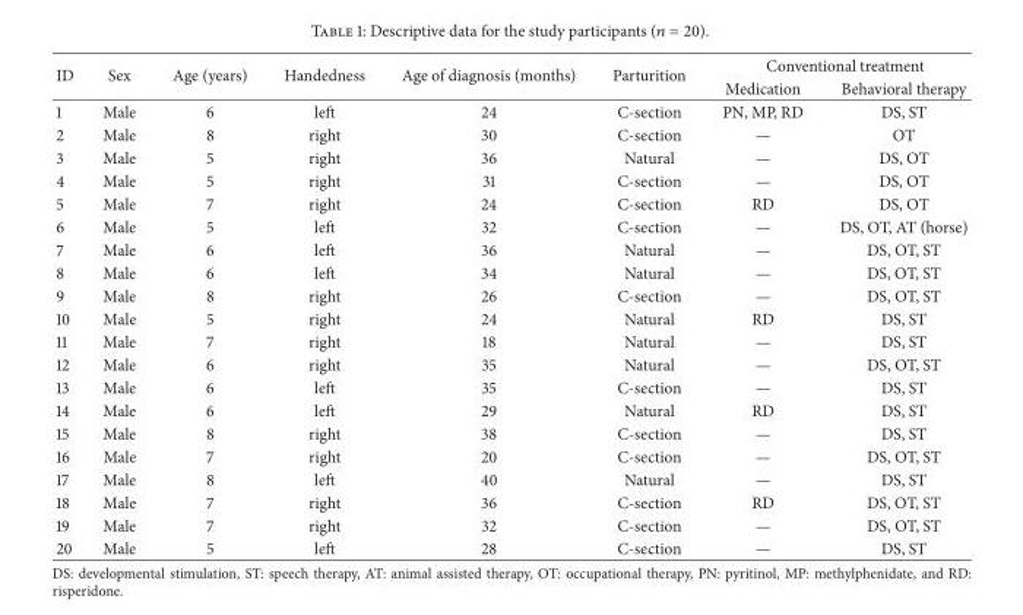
<table><thead><tr><td rowspan="2">ID</td><td rowspan="2">Sex</td><td rowspan="2">Age (years)</td><td rowspan="2">Handedness</td><td rowspan="2">Age of diagnosis (months)</td><td rowspan="2">Parturition</td><td colspan="2">Conventional treatment</td></tr><tr><td>Medication</td><td>Behavioral therapy</td></tr></thead><tbody><tr><td>1</td><td>Male</td><td>6</td><td>left</td><td>24</td><td>C-section</td><td>PN, MP, RD</td><td>DS, ST</td></tr><tr><td>2</td><td>Male</td><td>8</td><td>right</td><td>30</td><td>C-section</td><td>—</td><td>OT</td></tr><tr><td>3</td><td>Male</td><td>5</td><td>right</td><td>36</td><td>Natural</td><td>—</td><td>DS, OT</td></tr><tr><td>4</td><td>Male</td><td>5</td><td>right</td><td>31</td><td>C-section</td><td>—</td><td>DS, OT</td></tr><tr><td>5</td><td>Male</td><td>7</td><td>right</td><td>24</td><td>C-section</td><td>RD</td><td>DS, OT</td></tr><tr><td>6</td><td>Male</td><td>5</td><td>left</td><td>32</td><td>C-section</td><td>—</td><td>DS, OT, AT (horse)</td></tr><tr><td>7</td><td>Male</td><td>6</td><td>left</td><td>36</td><td>Natural</td><td>—</td><td>DS, OT, ST</td></tr><tr><td>8</td><td>Male</td><td>6</td><td>left</td><td>34</td><td>Natural</td><td>—</td><td>DS, OT, ST</td></tr><tr><td>9</td><td>Male</td><td>8</td><td>right</td><td>26</td><td>C-section</td><td>—</td><td>DS, OT, ST</td></tr><tr><td>10</td><td>Male</td><td>5</td><td>right</td><td>24</td><td>Natural</td><td>RD</td><td>DS, ST</td></tr><tr><td>11</td><td>Male</td><td>7</td><td>right</td><td>18</td><td>Natural</td><td>—</td><td>DS, ST</td></tr><tr><td>12</td><td>Male</td><td>6</td><td>right</td><td>35</td><td>Natural</td><td>—</td><td>DS, OT, ST</td></tr><tr><td>13</td><td>Male</td><td>6</td><td>left</td><td>35</td><td>C-section</td><td>—</td><td>DS, ST</td></tr><tr><td>14</td><td>Male</td><td>6</td><td>left</td><td>29</td><td>Natural</td><td>RD</td><td>DS, ST</td></tr><tr><td>15</td><td>Male</td><td>8</td><td>right</td><td>38</td><td>C-section</td><td>—</td><td>DS, ST</td></tr><tr><td>16</td><td>Male</td><td>7</td><td>right</td><td>20</td><td>C-section</td><td>—</td><td>DS, OT, ST</td></tr><tr><td>17</td><td>Male</td><td>8</td><td>left</td><td>40</td><td>Natural</td><td>—</td><td>DS, ST</td></tr><tr><td>18</td><td>Male</td><td>7</td><td>right</td><td>36</td><td>C-section</td><td>RD</td><td>DS, OT, ST</td></tr><tr><td>19</td><td>Male</td><td>7</td><td>right</td><td>32</td><td>C-section</td><td>—</td><td>DS, OT, ST</td></tr><tr><td>20</td><td>Male</td><td>5</td><td>left</td><td>28</td><td>C-section</td><td>—</td><td>DS, ST</td></tr></tbody></table>